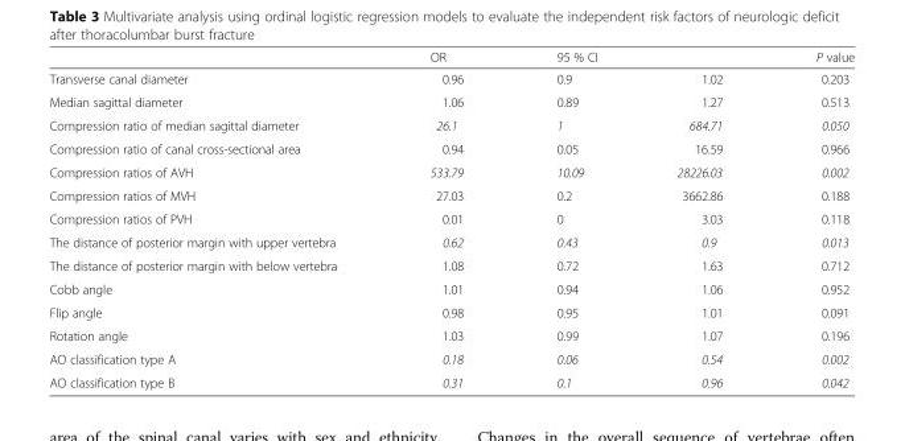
<table><thead><tr><td rowspan="2">Transverse canal diameter</td><td rowspan="2">OR 0.96</td><td colspan="2">95 % CI</td><td rowspan="2">P value 0.203</td></tr><tr><td>0.9</td><td>1.02</td></tr></thead><tbody><tr><td>Median sagittal diameter</td><td>1.06</td><td>0.89</td><td>1.27</td><td>0.513</td></tr><tr><td>Compression ratio of median sagittal diameter</td><td>26.1</td><td>1</td><td>684.71</td><td>0.050</td></tr><tr><td>Compression ratio of canal cross-sectional area</td><td>0.94</td><td>0.05</td><td>16.59</td><td>0.966</td></tr><tr><td>Compression ratios of AVH</td><td>533.79</td><td>10.09</td><td>28226.03</td><td>0.002</td></tr><tr><td>Compression ratios of MVH</td><td>27.03</td><td>0.2</td><td>3662.86</td><td>0.188</td></tr><tr><td>Compression ratios of PVH</td><td>0.01</td><td>0</td><td>3.03</td><td>0.118</td></tr><tr><td>The distance of posterior margin with upper vertebra</td><td>0.62</td><td>0.43</td><td>0.9</td><td>0.013</td></tr><tr><td>The distance of posterior margin with below vertebra</td><td>1.08</td><td>0.72</td><td>1.63</td><td>0.712</td></tr><tr><td>Cobb angle</td><td>1.01</td><td>0.94</td><td>1.06</td><td>0.952</td></tr><tr><td>Flip angle</td><td>0.98</td><td>0.95</td><td>1.01</td><td>0.091</td></tr><tr><td>Rotation angle</td><td>1.03</td><td>0.99</td><td>1.07</td><td>0.196</td></tr><tr><td>AO classification type A</td><td>0.18</td><td>0.06</td><td>0.54</td><td>0.002</td></tr><tr><td>AO classification type B</td><td>0.31</td><td>0.1</td><td>0.96</td><td>0.042</td></tr></tbody></table>